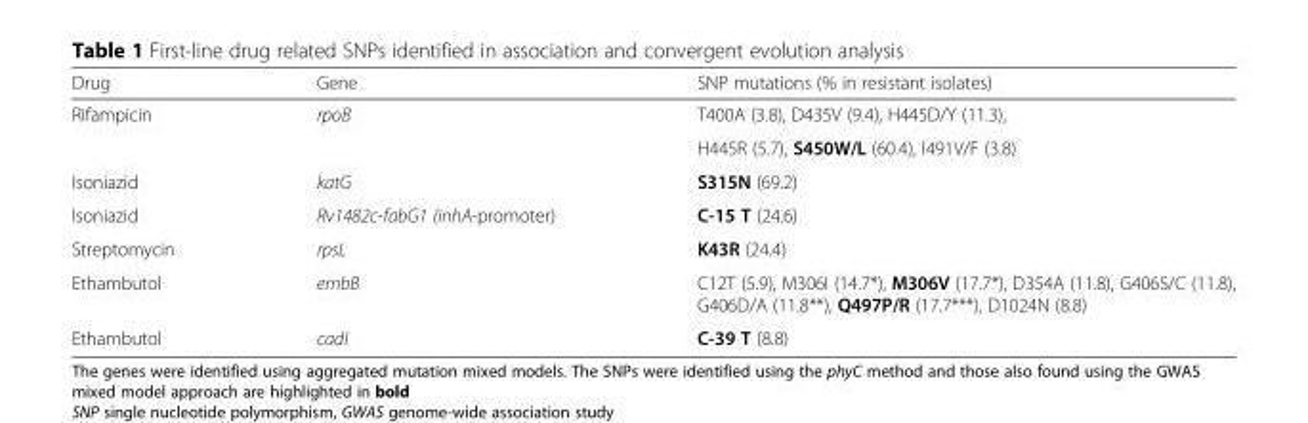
<table><thead><tr><td>Drug</td><td>Gene</td><td>SNP mutations (% in resistant isolates)</td></tr></thead><tbody><tr><td rowspan="2">Rifampicin</td><td>rpoB</td><td>T400A (3.8), D435V (9.4), H445D/Y (11.3),</td></tr><tr><td></td><td>H445R (5.7), S450W/L (60.4), I491V/F (3.8)</td></tr><tr><td>Isoniazid</td><td>katG</td><td>S315N (69.2)</td></tr><tr><td>Isoniazid</td><td>Rv1482c-fabG1 (inhA-promoter)</td><td>C-15 T (24.6)</td></tr><tr><td>Streptomycin</td><td>rpsL</td><td>K43R (24.4)</td></tr><tr><td>Ethambutol</td><td>embB</td><td>C12T (5.9), M306I (14.7*), M306V (17.7*), D354A (11.8), G406S/C (11.8), G406D/A (11.8**), Q497P/R (17.7***), D1024N (8.8)</td></tr><tr><td>Ethambutol</td><td>cadI</td><td>C-39 T (8.8)</td></tr></tbody></table>